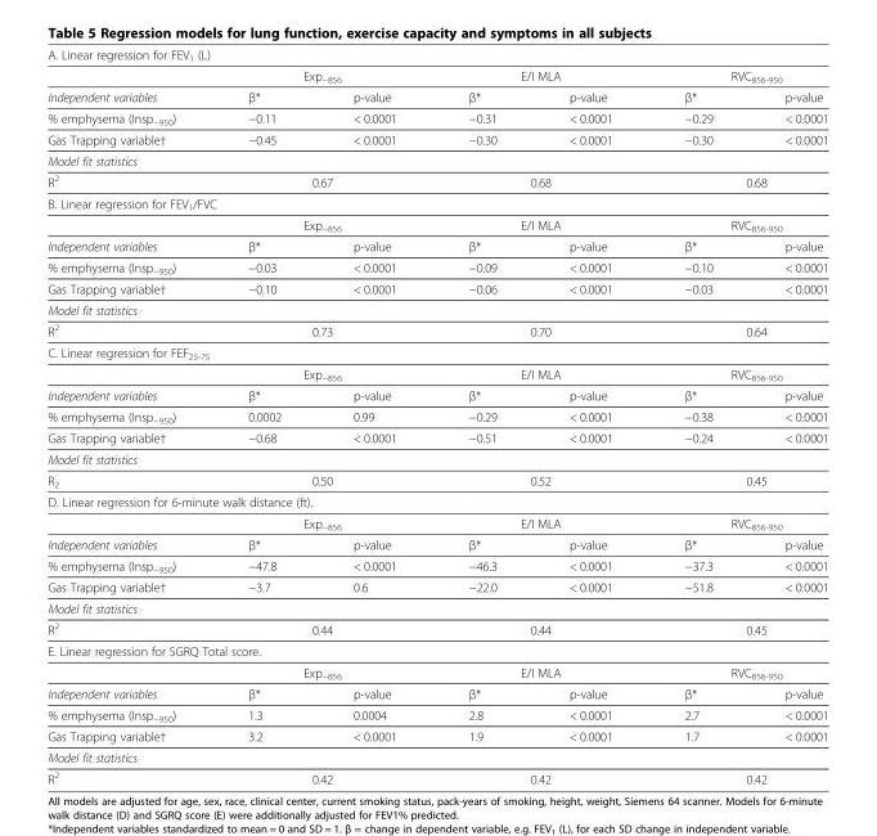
<table><tbody><tr><td colspan="7">A. Linear regression for FEV<sub>1</sub> (L)</td></tr><tr><td></td><td colspan="2">Exp<sub>−856</sub></td><td colspan="2">E/I MLA</td><td colspan="2">RVC<sub>856-950</sub></td></tr><tr><td>Independent variables</td><td>β*</td><td>p-value</td><td>β*</td><td>p-value</td><td>β*</td><td>p-value</td></tr><tr><td>% emphysema (Insp<sub>−950</sub>)</td><td>−0.11</td><td>&lt; 0.0001</td><td>−0.31</td><td>&lt; 0.0001</td><td>−0.29</td><td>&lt; 0.0001</td></tr><tr><td>Gas Trapping variable†</td><td>−0.45</td><td>&lt; 0.0001</td><td>−0.30</td><td>&lt; 0.0001</td><td>−0.30</td><td>&lt; 0.0001</td></tr><tr><td colspan="7">Model fit statistics</td></tr><tr><td>R<sup>2</sup></td><td colspan="2">0.67</td><td colspan="2">0.68</td><td colspan="2">0.68</td></tr><tr><td colspan="7">B. Linear regression for FEV<sub>1</sub>/FVC</td></tr><tr><td></td><td colspan="2">Exp<sub>−856</sub></td><td colspan="2">E/I MLA</td><td colspan="2">RVC<sub>856-950</sub></td></tr><tr><td>Independent variables</td><td>β*</td><td>p-value</td><td>β*</td><td>p-value</td><td>β*</td><td>p-value</td></tr><tr><td>% emphysema (Insp<sub>−950</sub>)</td><td>−0.03</td><td>&lt; 0.0001</td><td>−0.09</td><td>&lt; 0.0001</td><td>−0.10</td><td>&lt; 0.0001</td></tr><tr><td>Gas Trapping variable†</td><td>−0.10</td><td>&lt; 0.0001</td><td>−0.06</td><td>&lt; 0.0001</td><td>−0.03</td><td>&lt; 0.0001</td></tr><tr><td colspan="7">Model fit statistics</td></tr><tr><td>R<sup>2</sup></td><td colspan="2">0.73</td><td colspan="2">0.70</td><td colspan="2">0.64</td></tr><tr><td colspan="7">C. Linear regression for FEF<sub>25-75</sub></td></tr><tr><td></td><td colspan="2">Exp<sub>−856</sub></td><td colspan="2">E/I MLA</td><td colspan="2">RVC<sub>856-950</sub></td></tr><tr><td>Independent variables</td><td>β*</td><td>p-value</td><td>β*</td><td>p-value</td><td>β*</td><td>p-value</td></tr><tr><td>% emphysema (Insp<sub>−950</sub>)</td><td>0.0002</td><td>0.99</td><td>−0.29</td><td>&lt; 0.0001</td><td>−0.38</td><td>&lt; 0.0001</td></tr><tr><td>Gas Trapping variable†</td><td>−0.68</td><td>&lt; 0.0001</td><td>−0.51</td><td>&lt; 0.0001</td><td>−0.24</td><td>&lt; 0.0001</td></tr><tr><td colspan="7">Model fit statistics</td></tr><tr><td>R<sub>2</sub></td><td colspan="2">0.50</td><td colspan="2">0.52</td><td colspan="2">0.45</td></tr><tr><td colspan="7">D. Linear regression for 6-minute walk distance (ft).</td></tr><tr><td></td><td colspan="2">Exp<sub>−856</sub></td><td colspan="2">E/I MLA</td><td colspan="2">RVC<sub>856-950</sub></td></tr><tr><td>Independent variables</td><td>β*</td><td>p-value</td><td>β*</td><td>p-value</td><td>β*</td><td>p-value</td></tr><tr><td>% emphysema (Insp<sub>−950</sub>)</td><td>−47.8</td><td>&lt; 0.0001</td><td>−46.3</td><td>&lt; 0.0001</td><td>−37.3</td><td>&lt; 0.0001</td></tr><tr><td>Gas Trapping variable†</td><td>−3.7</td><td>0.6</td><td>−22.0</td><td>&lt; 0.0001</td><td>−51.8</td><td>&lt; 0.0001</td></tr><tr><td colspan="7">Model fit statistics</td></tr><tr><td>R<sup>2</sup></td><td colspan="2">0.44</td><td colspan="2">0.44</td><td colspan="2">0.45</td></tr><tr><td colspan="7">E. Linear regression for SGRQ Total score.</td></tr><tr><td></td><td colspan="2">Exp<sub>−856</sub></td><td colspan="2">E/I MLA</td><td colspan="2">RVC<sub>856-950</sub></td></tr><tr><td>Independent variables</td><td>β*</td><td>p-value</td><td>β*</td><td>p-value</td><td>β*</td><td>p-value</td></tr><tr><td>% emphysema (Insp<sub>−950</sub>)</td><td>1.3</td><td>0.0004</td><td>2.8</td><td>&lt; 0.0001</td><td>2.7</td><td>&lt; 0.0001</td></tr><tr><td>Gas Trapping variable†</td><td>3.2</td><td>&lt; 0.0001</td><td>1.9</td><td>&lt; 0.0001</td><td>1.7</td><td>&lt; 0.0001</td></tr><tr><td colspan="7">Model fit statistics</td></tr><tr><td>R<sup>2</sup></td><td colspan="2">0.42</td><td colspan="2">0.42</td><td colspan="2">0.42</td></tr></tbody></table>